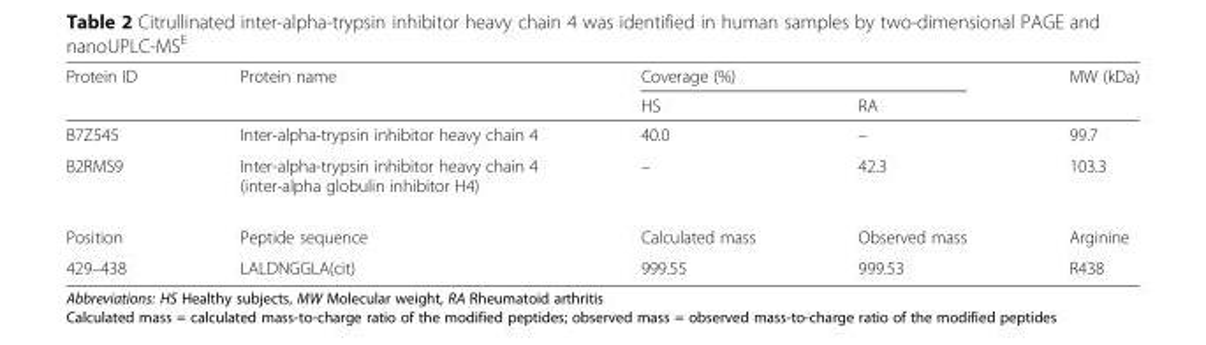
<table><thead><tr><td rowspan="2">Protein ID</td><td rowspan="2">Protein name</td><td colspan="2">Coverage (%)</td><td rowspan="2">MW (kDa)</td></tr><tr><td>HS</td><td>RA</td></tr></thead><tbody><tr><td>B7Z545</td><td>Inter-alpha-trypsin inhibitor heavy chain 4</td><td>40.0</td><td>–</td><td>99.7</td></tr><tr><td>B2RMS9</td><td>Inter-alpha-trypsin inhibitor heavy chain 4 (inter-alpha globulin inhibitor H4)</td><td>–</td><td>42.3</td><td>103.3</td></tr><tr><td>Position</td><td>Peptide sequence</td><td>Calculated mass</td><td>Observed mass</td><td>Arginine</td></tr><tr><td>429–438</td><td>LALDNGGLA(cit)</td><td>999.55</td><td>999.53</td><td>R438</td></tr></tbody></table>